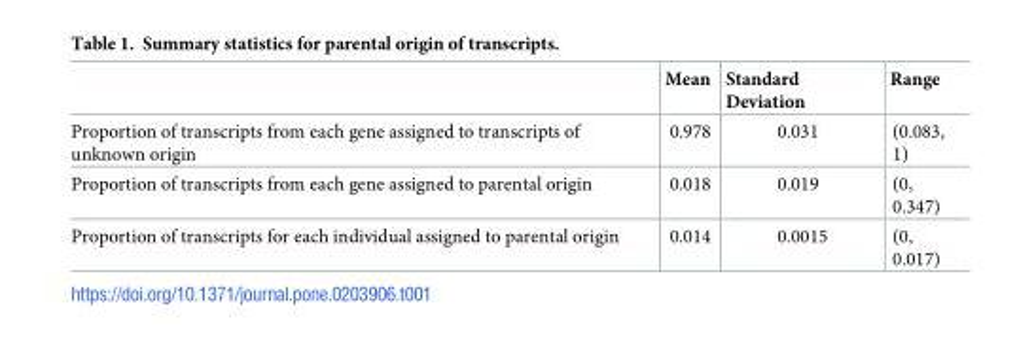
<table><thead><tr><td></td><td>Mean</td><td>Standard Deviation</td><td>Range</td></tr></thead><tbody><tr><td>Proportion of transcripts from each gene assigned to transcripts of unknown origin</td><td>0.978</td><td>0.031</td><td>(0.083, 1)</td></tr><tr><td>Proportion of transcripts from each gene assigned to parental origin</td><td>0.018</td><td>0.019</td><td>(0, 0.347)</td></tr><tr><td>Proportion of transcripts for each individual assigned to parental origin</td><td>0.014</td><td>0.0015</td><td>(0, 0.017)</td></tr></tbody></table>